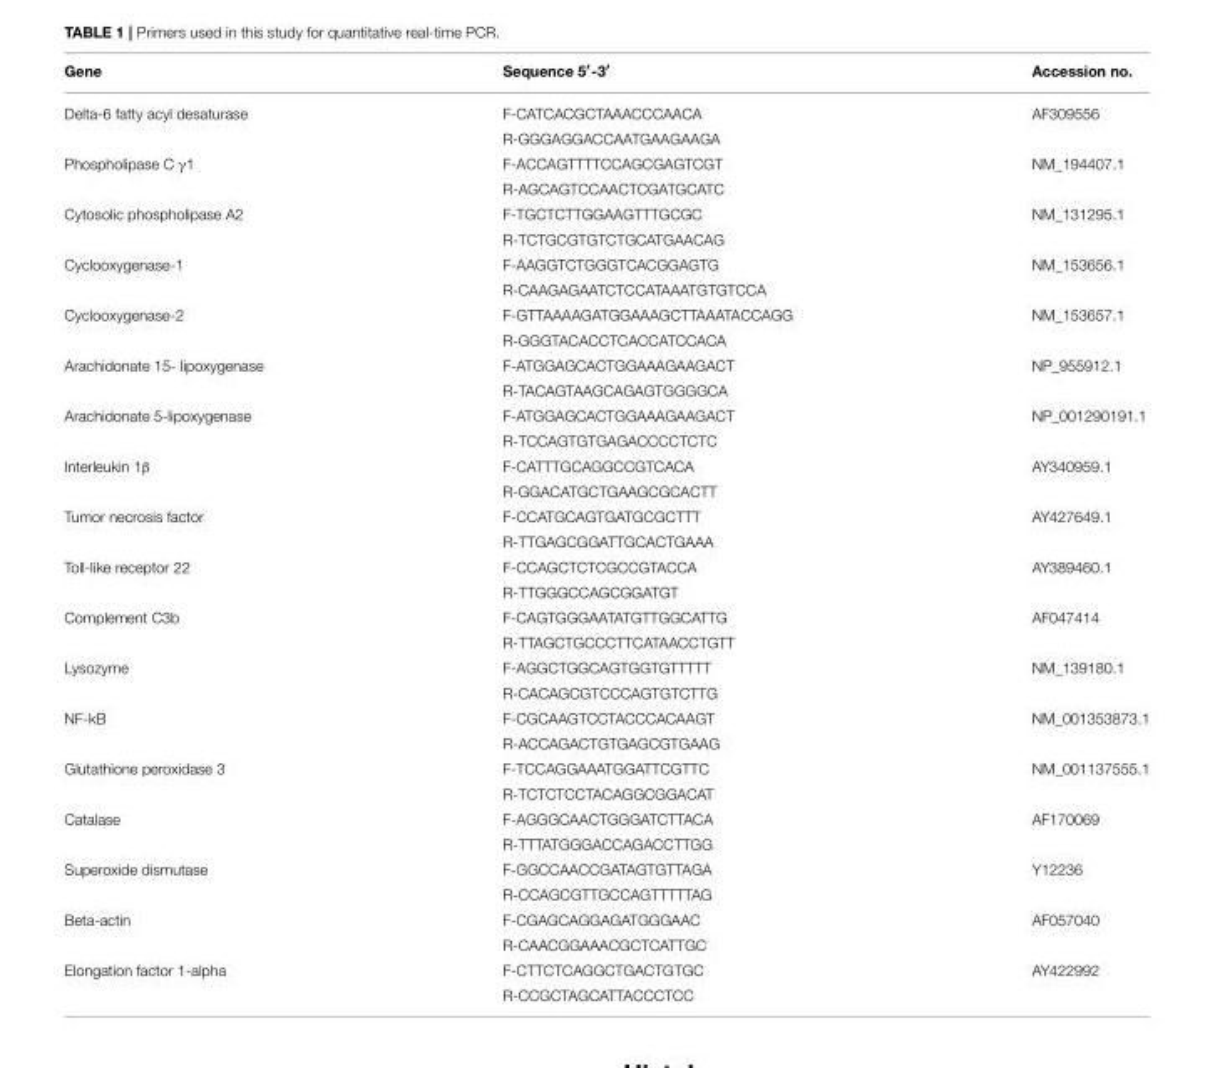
<table><thead><tr><td>Gene</td><td>Sequence 5′-3′</td><td>Accession no.</td></tr></thead><tbody><tr><td rowspan="2">Delta-6 fatty acyl desaturase</td><td>F-CATCACGCTAAACCCAACA</td><td>AF309556</td></tr><tr><td>R-GGGAGGACCAATGAAGAAGA</td><td></td></tr><tr><td rowspan="2">Phospholipase C γ1</td><td>F-ACCAGTTTTCCAGCGAGTCGT</td><td>NM_194407.1</td></tr><tr><td>R-AGCAGTCCAACTCGATGCATC</td><td></td></tr><tr><td rowspan="2">Cytosolic phospholipase A2</td><td>F-TGCTCTTGGAAGTTTGCGC</td><td>NM_131295.1</td></tr><tr><td>R-TCTGCGTGTCTGCATGAACAG</td><td></td></tr><tr><td rowspan="2">Cyclooxygenase-1</td><td>F-AAGGTCTGGGTCACGGAGTG</td><td>NM_153656.1</td></tr><tr><td>R-CAAGAGAATCTCCATAAATGTGTCCA</td><td></td></tr><tr><td rowspan="2">Cyclooxygenase-2</td><td>F-GTTAAAAGATGGAAAGCTTAAATACCAGG</td><td>NM_153657.1</td></tr><tr><td>R-GGGTACACCTCACCATCCACA</td><td></td></tr><tr><td rowspan="2">Arachidonate 15- lipoxygenase</td><td>F-ATGGAGCACTGGAAAGAAGACT</td><td>NP_955912.1</td></tr><tr><td>R-TACAGTAAGCAGAGTGGGGCA</td><td></td></tr><tr><td rowspan="2">Arachidonate 5-lipoxygenase</td><td>F-ATGGAGCACTGGAAAGAAGACT</td><td>NP_001290191.1</td></tr><tr><td>R-TCCAGTGTGAGACCCCTCTC</td><td></td></tr><tr><td rowspan="2">Interleukin 1β</td><td>F-CATTTGCAGGCCGTCACA</td><td>AY340959.1</td></tr><tr><td>R-GGACATGCTGAAGCGCACTT</td><td></td></tr><tr><td rowspan="2">Tumor necrosis factor</td><td>F-CCATGCAGTGATGCGCTTT</td><td>AY427649.1</td></tr><tr><td>R-TTGAGCGGATTGCACTGAAA</td><td></td></tr><tr><td rowspan="2">Toll-like receptor 22</td><td>F-CCAGCTCTCGCCGTACCA</td><td>AY389460.1</td></tr><tr><td>R-TTGGGCCAGCGGATGT</td><td></td></tr><tr><td rowspan="2">Complement C3b</td><td>F-CAGTGGGAATATGTTGGCATTG</td><td>AF047414</td></tr><tr><td>R-TTAGCTGCCCTTCATAACCTGTT</td><td></td></tr><tr><td rowspan="2">Lysozyme</td><td>F-AGGCTGGCAGTGGTGTTTTT</td><td>NM_139180.1</td></tr><tr><td>R-CACAGCGTCCCAGTGTCTTG</td><td></td></tr><tr><td rowspan="2">NF-kB</td><td>F-CGCAAGTCCTACCCACAAGT</td><td>NM_001353873.1</td></tr><tr><td>R-ACCAGACTGTGAGCGTGAAG</td><td></td></tr><tr><td rowspan="2">Glutathione peroxidase 3</td><td>F-TCCAGGAAATGGATTCGTTC</td><td>NM_001137555.1</td></tr><tr><td>R-TCTCTCCTACAGGCGGACAT</td><td></td></tr><tr><td rowspan="2">Catalase</td><td>F-AGGGCAACTGGGATCTTACA</td><td>AF170069</td></tr><tr><td>R-TTTATGGGACCAGACCTTGG</td><td></td></tr><tr><td rowspan="2">Superoxide dismutase</td><td>F-GGCCAACCGATAGTGTTAGA</td><td>Y12236</td></tr><tr><td>R-CCAGCGTTGCCAGTTTTTAG</td><td></td></tr><tr><td rowspan="2">Beta-actin</td><td>F-CGAGCAGGAGATGGGAAC</td><td>AF057040</td></tr><tr><td>R-CAACGGAAACGCTCATTGC</td><td></td></tr><tr><td rowspan="2">Elongation factor 1-alpha</td><td>F-CTTCTCAGGCTGACTGTGC</td><td>AY422992</td></tr><tr><td>R-CCGCTAGCATTACCCTCC</td><td></td></tr></tbody></table>